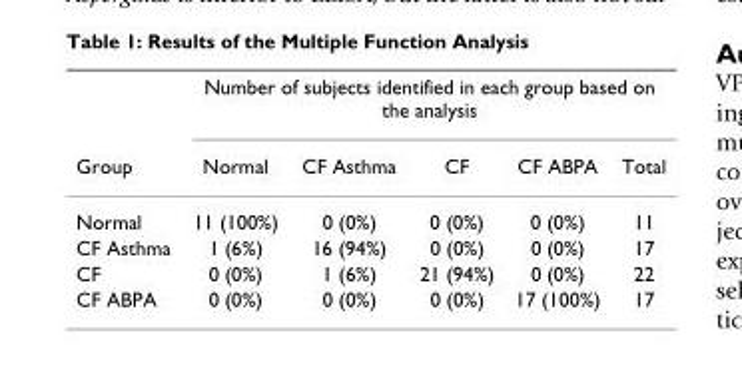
<table><thead><tr><td rowspan="2">Group</td><td colspan="5">Number of subjects identified in each group based on the analysis</td></tr><tr><td>Normal</td><td>CF Asthma</td><td>CF</td><td>CF ABPA</td><td>Total</td></tr></thead><tbody><tr><td>Normal</td><td>11 (100%)</td><td>0 (0%)</td><td>0 (0%)</td><td>0 (0%)</td><td>11</td></tr><tr><td>CF Asthma</td><td>1 (6%)</td><td>16 (94%)</td><td>0 (0%)</td><td>0 (0%)</td><td>17</td></tr><tr><td>CF</td><td>0 (0%)</td><td>1 (6%)</td><td>21 (94%)</td><td>0 (0%)</td><td>22</td></tr><tr><td>CF ABPA</td><td>0 (0%)</td><td>0 (0%)</td><td>0 (0%)</td><td>17 (100%)</td><td>17</td></tr></tbody></table>